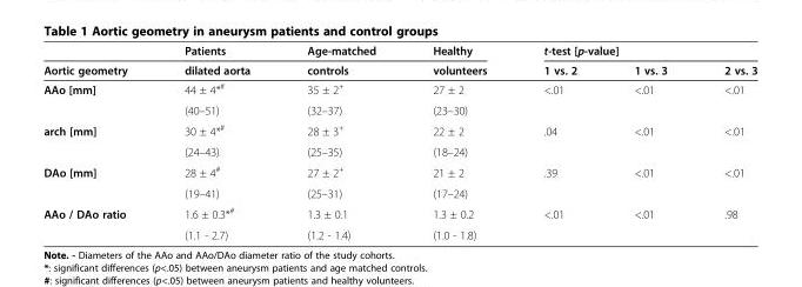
<table><thead><tr><td rowspan="2">Aortic geometry</td><td rowspan="2">Patients dilated aorta</td><td rowspan="2">Age-matched controls</td><td rowspan="2">Healthy volunteers</td><td colspan="3">t-test [p-value]</td></tr><tr><td>1 vs. 2</td><td>1 vs. 3</td><td>2 vs. 3</td></tr></thead><tbody><tr><td rowspan="2">AAo [mm]</td><td>44 ± 4*<sup>#</sup></td><td>35 ± 2<sup>+</sup></td><td>27 ± 2</td><td>&lt;.01</td><td>&lt;.01</td><td>&lt;.01</td></tr><tr><td>(40–51)</td><td>(32–37)</td><td>(23–30)</td><td></td><td></td><td></td></tr><tr><td rowspan="2">arch [mm]</td><td>30 ± 4*<sup>#</sup></td><td>28 ± 3<sup>+</sup></td><td>22 ± 2</td><td>.04</td><td>&lt;.01</td><td>&lt;.01</td></tr><tr><td>(24–43)</td><td>(25–35)</td><td>(18–24)</td><td></td><td></td><td></td></tr><tr><td rowspan="2">DAo [mm]</td><td>28 ± 4<sup>#</sup></td><td>27 ± 2<sup>+</sup></td><td>21 ± 2</td><td>.39</td><td>&lt;.01</td><td>&lt;.01</td></tr><tr><td>(19–41)</td><td>(25–31)</td><td>(17–24)</td><td></td><td></td><td></td></tr><tr><td rowspan="2">AAo / DAo ratio</td><td>1.6 ± 0.3*<sup>#</sup></td><td>1.3 ± 0.1</td><td>1.3 ± 0.2</td><td>&lt;.01</td><td>&lt;.01</td><td>.98</td></tr><tr><td>(1.1 - 2.7)</td><td>(1.2 - 1.4)</td><td>(1.0 - 1.8)</td><td></td><td></td><td></td></tr></tbody></table>